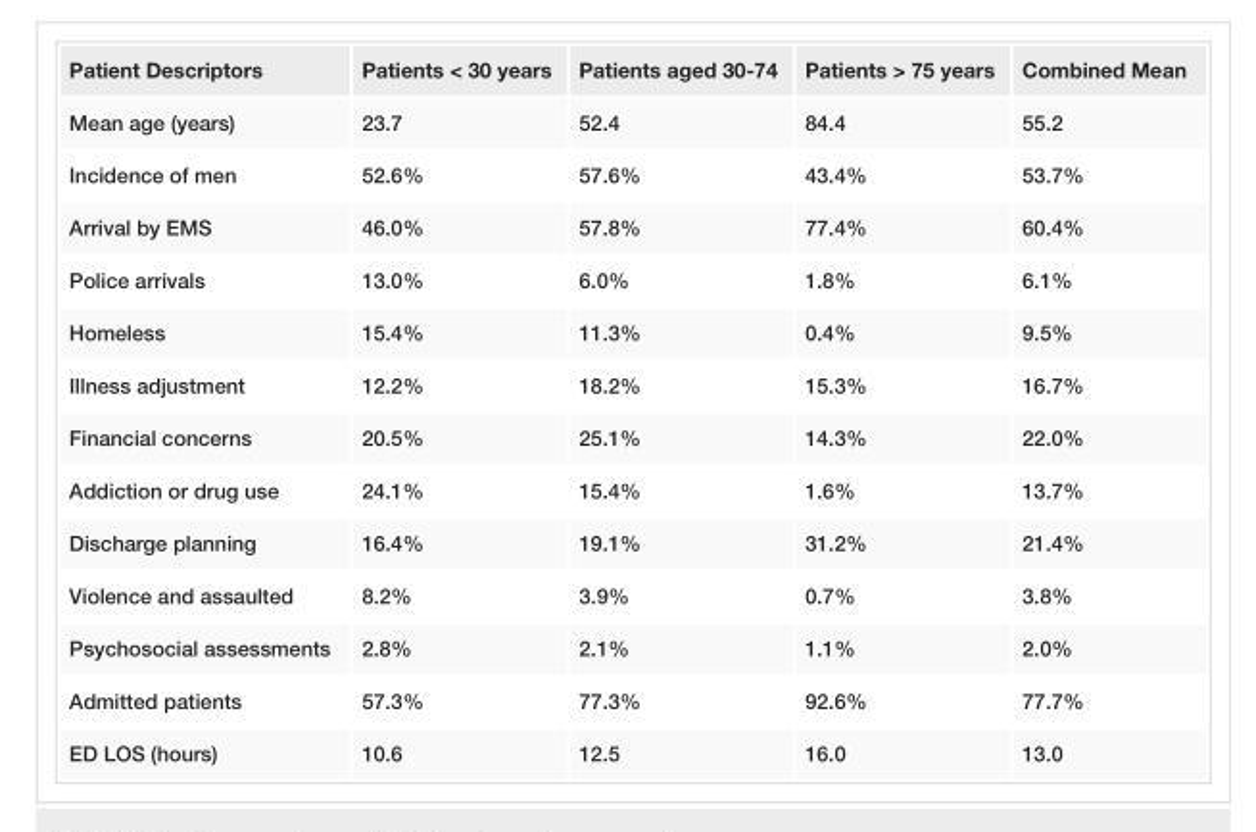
<table><tbody><tr><td>Patient Descriptors</td><td>Patients &lt; 30 years</td><td>Patients aged 30-74</td><td>Patients &gt; 75 years</td><td>Combined Mean</td></tr><tr><td>Mean age (years)</td><td>23.7</td><td>52.4</td><td>84.4</td><td>55.2</td></tr><tr><td>Incidence of men</td><td>52.6%</td><td>57.6%</td><td>43.4%</td><td>53.7%</td></tr><tr><td>Arrival by EMS</td><td>46.0%</td><td>57.8%</td><td>77.4%</td><td>60.4%</td></tr><tr><td>Police arrivals</td><td>13.0%</td><td>6.0%</td><td>1.8%</td><td>6.1%</td></tr><tr><td>Homeless</td><td>15.4%</td><td>11.3%</td><td>0.4%</td><td>9.5%</td></tr><tr><td>Illness adjustment</td><td>12.2%</td><td>18.2%</td><td>15.3%</td><td>16.7%</td></tr><tr><td>Financial concerns</td><td>20.5%</td><td>25.1%</td><td>14.3%</td><td>22.0%</td></tr><tr><td>Addiction or drug use</td><td>24.1%</td><td>15.4%</td><td>1.6%</td><td>13.7%</td></tr><tr><td>Discharge planning</td><td>16.4%</td><td>19.1%</td><td>31.2%</td><td>21.4%</td></tr><tr><td>Violence and assaulted</td><td>8.2%</td><td>3.9%</td><td>0.7%</td><td>3.8%</td></tr><tr><td>Psychosocial assessments</td><td>2.8%</td><td>2.1%</td><td>1.1%</td><td>2.0%</td></tr><tr><td>Admitted patients</td><td>57.3%</td><td>77.3%</td><td>92.6%</td><td>77.7%</td></tr><tr><td>ED LOS (hours)</td><td>10.6</td><td>12.5</td><td>16.0</td><td>13.0</td></tr></tbody></table>